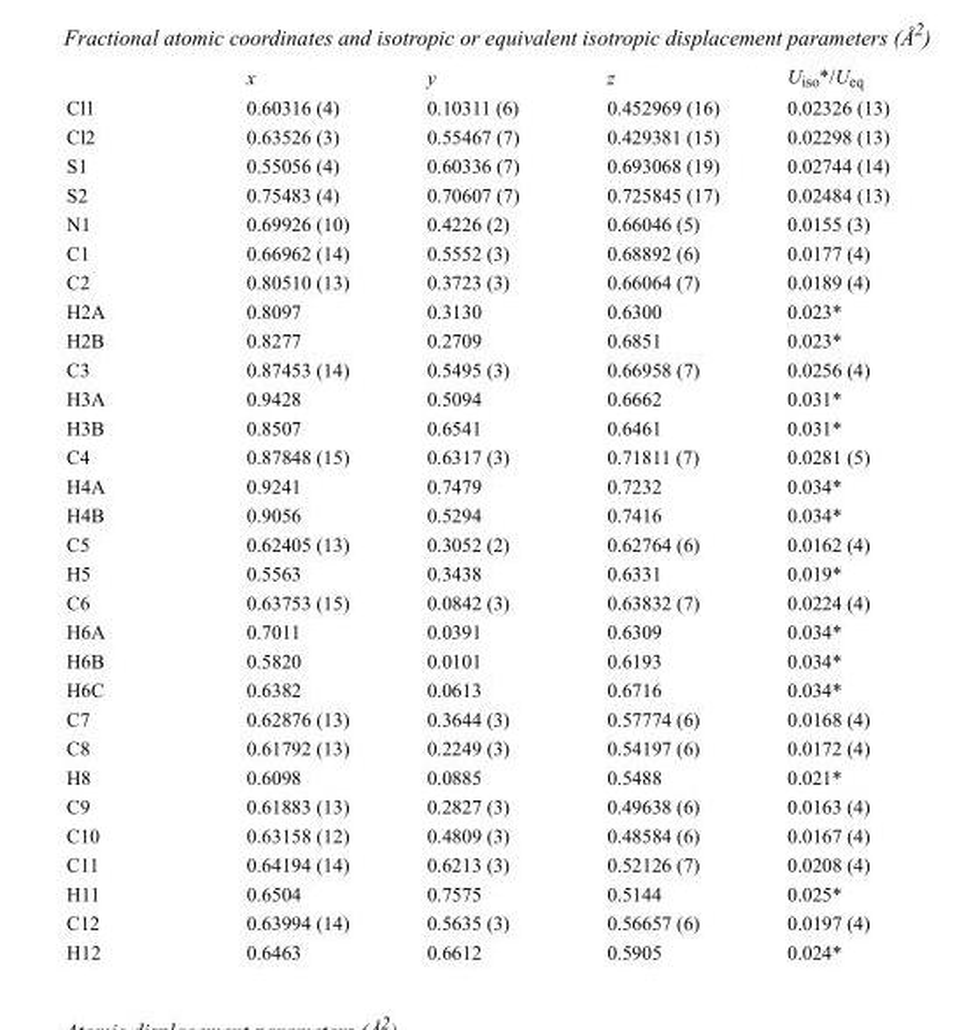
<table><thead><tr><td></td><td>x</td><td>y</td><td>z</td><td>U<sub>iso</sub>*/U<sub>eq</sub></td></tr></thead><tbody><tr><td>Cl1</td><td>0.60316 (4)</td><td>0.10311 (6)</td><td>0.452969 (16)</td><td>0.02326 (13)</td></tr><tr><td>Cl2</td><td>0.63526 (3)</td><td>0.55467 (7)</td><td>0.429381 (15)</td><td>0.02298 (13)</td></tr><tr><td>S1</td><td>0.55056 (4)</td><td>0.60336 (7)</td><td>0.693068 (19)</td><td>0.02744 (14)</td></tr><tr><td>S2</td><td>0.75483 (4)</td><td>0.70607 (7)</td><td>0.725845 (17)</td><td>0.02484 (13)</td></tr><tr><td>N1</td><td>0.69926 (10)</td><td>0.4226 (2)</td><td>0.66046 (5)</td><td>0.0155 (3)</td></tr><tr><td>C1</td><td>0.66962 (14)</td><td>0.5552 (3)</td><td>0.68892 (6)</td><td>0.0177 (4)</td></tr><tr><td>C2</td><td>0.80510 (13)</td><td>0.3723 (3)</td><td>0.66064 (7)</td><td>0.0189 (4)</td></tr><tr><td>H2A</td><td>0.8097</td><td>0.3130</td><td>0.6300</td><td>0.023*</td></tr><tr><td>H2B</td><td>0.8277</td><td>0.2709</td><td>0.6851</td><td>0.023*</td></tr><tr><td>C3</td><td>0.87453 (14)</td><td>0.5495 (3)</td><td>0.66958 (7)</td><td>0.0256 (4)</td></tr><tr><td>H3A</td><td>0.9428</td><td>0.5094</td><td>0.6662</td><td>0.031*</td></tr><tr><td>H3B</td><td>0.8507</td><td>0.6541</td><td>0.6461</td><td>0.031*</td></tr><tr><td>C4</td><td>0.87848 (15)</td><td>0.6317 (3)</td><td>0.71811 (7)</td><td>0.0281 (5)</td></tr><tr><td>H4A</td><td>0.9241</td><td>0.7479</td><td>0.7232</td><td>0.034*</td></tr><tr><td>H4B</td><td>0.9056</td><td>0.5294</td><td>0.7416</td><td>0.034*</td></tr><tr><td>C5</td><td>0.62405 (13)</td><td>0.3052 (2)</td><td>0.62764 (6)</td><td>0.0162 (4)</td></tr><tr><td>H5</td><td>0.5563</td><td>0.3438</td><td>0.6331</td><td>0.019*</td></tr><tr><td>C6</td><td>0.63753 (15)</td><td>0.0842 (3)</td><td>0.63832 (7)</td><td>0.0224 (4)</td></tr><tr><td>H6A</td><td>0.7011</td><td>0.0391</td><td>0.6309</td><td>0.034*</td></tr><tr><td>H6B</td><td>0.5820</td><td>0.0101</td><td>0.6193</td><td>0.034*</td></tr><tr><td>H6C</td><td>0.6382</td><td>0.0613</td><td>0.6716</td><td>0.034*</td></tr><tr><td>C7</td><td>0.62876 (13)</td><td>0.3644 (3)</td><td>0.57774 (6)</td><td>0.0168 (4)</td></tr><tr><td>C8</td><td>0.61792 (13)</td><td>0.2249 (3)</td><td>0.54197 (6)</td><td>0.0172 (4)</td></tr><tr><td>H8</td><td>0.6098</td><td>0.0885</td><td>0.5488</td><td>0.021*</td></tr><tr><td>C9</td><td>0.61883 (13)</td><td>0.2827 (3)</td><td>0.49638 (6)</td><td>0.0163 (4)</td></tr><tr><td>C10</td><td>0.63158 (12)</td><td>0.4809 (3)</td><td>0.48584 (6)</td><td>0.0167 (4)</td></tr><tr><td>C11</td><td>0.64194 (14)</td><td>0.6213 (3)</td><td>0.52126 (7)</td><td>0.0208 (4)</td></tr><tr><td>H11</td><td>0.6504</td><td>0.7575</td><td>0.5144</td><td>0.025*</td></tr><tr><td>C12</td><td>0.63994 (14)</td><td>0.5635 (3)</td><td>0.56657 (6)</td><td>0.0197 (4)</td></tr><tr><td>H12</td><td>0.6463</td><td>0.6612</td><td>0.5905</td><td>0.024*</td></tr></tbody></table>